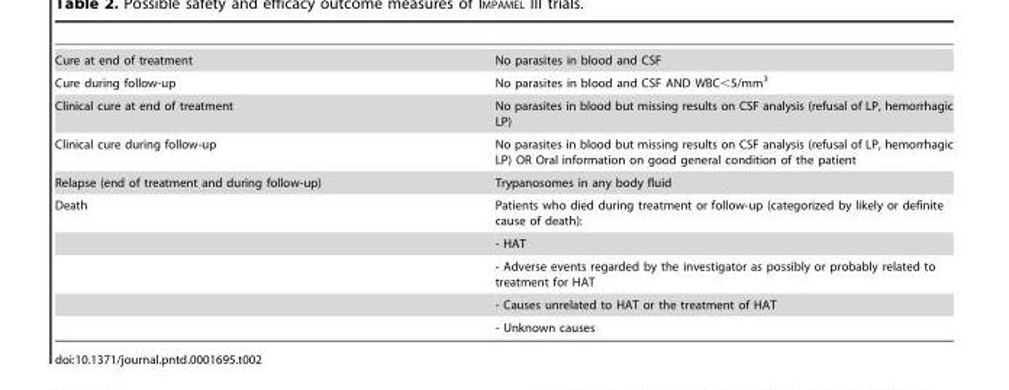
<table><tbody><tr><td>Cure at end of treatment</td><td>No parasites in blood and CSF</td></tr><tr><td>Cure during follow-up</td><td>No parasites in blood and CSF AND WBC&lt;5/mm<sup>3</sup></td></tr><tr><td>Clinical cure at end of treatment</td><td>No parasites in blood but missing results on CSF analysis (refusal of LP, hemorrhagic LP)</td></tr><tr><td>Clinical cure during follow-up</td><td>No parasites in blood but missing results on CSF analysis (refusal of LP, hemorrhagic LP) OR Oral information on good general condition of the patient</td></tr><tr><td>Relapse (end of treatment and during follow-up)</td><td>Trypanosomes in any body fluid</td></tr><tr><td rowspan="5">Death</td><td>Patients who died during treatment or follow-up (categorized by likely or definite cause of death):</td></tr><tr><td>- HAT</td></tr><tr><td>- Adverse events regarded by the investigator as possibly or probably related to treatment for HAT</td></tr><tr><td>- Causes unrelated to HAT or the treatment of HAT</td></tr><tr><td>- Unknown causes</td></tr></tbody></table>